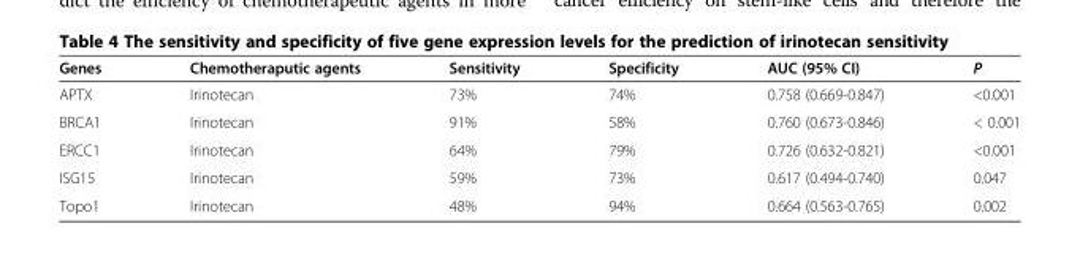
<table><thead><tr><td>Genes</td><td>Chemotheraputic agents</td><td>Sensitivity</td><td>Specificity</td><td>AUC (95% CI)</td><td>P</td></tr></thead><tbody><tr><td>APTX</td><td>Irinotecan</td><td>73%</td><td>74%</td><td>0.758 (0.669-0.847)</td><td>&lt;0.001</td></tr><tr><td>BRCA1</td><td>Irinotecan</td><td>91%</td><td>58%</td><td>0.760 (0.673-0.846)</td><td>&lt; 0.001</td></tr><tr><td>ERCC1</td><td>Irinotecan</td><td>64%</td><td>79%</td><td>0.726 (0.632-0.821)</td><td>&lt;0.001</td></tr><tr><td>ISG15</td><td>Irinotecan</td><td>59%</td><td>73%</td><td>0.617 (0.494-0.740)</td><td>0.047</td></tr><tr><td>Topo1</td><td>Irinotecan</td><td>48%</td><td>94%</td><td>0.664 (0.563-0.765)</td><td>0.002</td></tr></tbody></table>